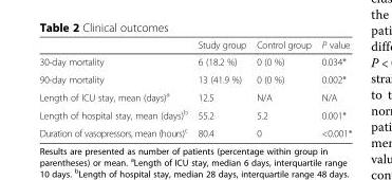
<table><thead><tr><td></td><td>Study group</td><td>Control group</td><td>P value</td></tr></thead><tbody><tr><td>30-day mortality</td><td>6 (18.2 %)</td><td>0 (0 %)</td><td>0.034*</td></tr><tr><td>90-day mortality</td><td>13 (41.9 %)</td><td>0 (0 %)</td><td>0.002*</td></tr><tr><td>Length of ICU stay, mean (days)<sup>a</sup></td><td>12.5</td><td>N/A</td><td>N/A</td></tr><tr><td>Length of hospital stay, mean (days)<sup>b</sup></td><td>55.2</td><td>5.2</td><td>0.001*</td></tr><tr><td>Duration of vasopressors, mean (hours)<sup>c</sup></td><td>80.4</td><td>0</td><td>&lt;0.001*</td></tr></tbody></table>